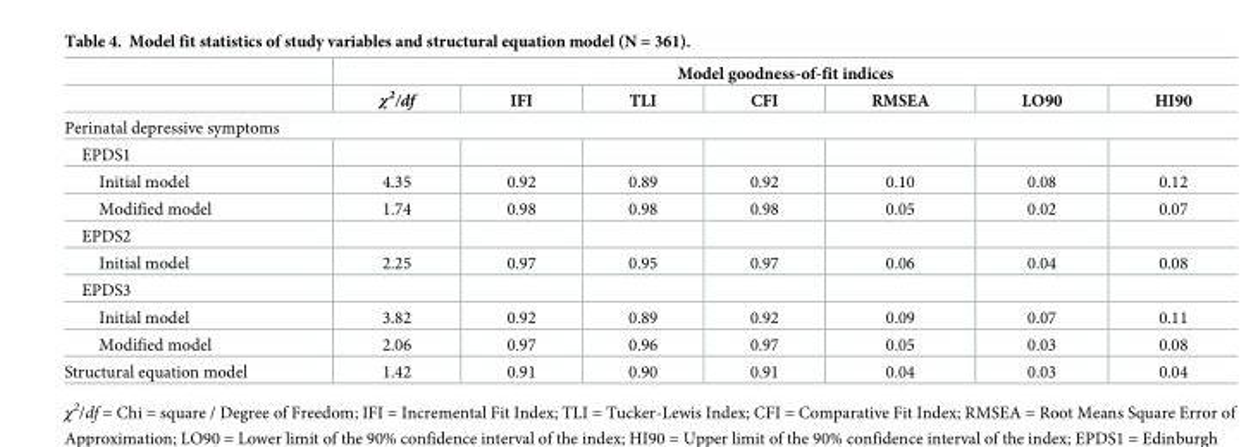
<table><thead><tr><td rowspan="2"></td><td colspan="7">Model goodness-of-fit indices</td></tr><tr><td>χ<sup>2</sup>/df</td><td>IFI</td><td>TLI</td><td>CFI</td><td>RMSEA</td><td>LO90</td><td>HI90</td></tr></thead><tbody><tr><td colspan="8">Perinatal depressive symptoms</td></tr><tr><td colspan="8">EPDS1</td></tr><tr><td>Initial model</td><td>4.35</td><td>0.92</td><td>0.89</td><td>0.92</td><td>0.10</td><td>0.08</td><td>0.12</td></tr><tr><td>Modified model</td><td>1.74</td><td>0.98</td><td>0.98</td><td>0.98</td><td>0.05</td><td>0.02</td><td>0.07</td></tr><tr><td colspan="8">EPDS2</td></tr><tr><td>Initial model</td><td>2.25</td><td>0.97</td><td>0.95</td><td>0.97</td><td>0.06</td><td>0.04</td><td>0.08</td></tr><tr><td colspan="8">EPDS3</td></tr><tr><td>Initial model</td><td>3.82</td><td>0.92</td><td>0.89</td><td>0.92</td><td>0.09</td><td>0.07</td><td>0.11</td></tr><tr><td>Modified model</td><td>2.06</td><td>0.97</td><td>0.96</td><td>0.97</td><td>0.05</td><td>0.03</td><td>0.08</td></tr><tr><td>Structural equation model</td><td>1.42</td><td>0.91</td><td>0.90</td><td>0.91</td><td>0.04</td><td>0.03</td><td>0.04</td></tr></tbody></table>